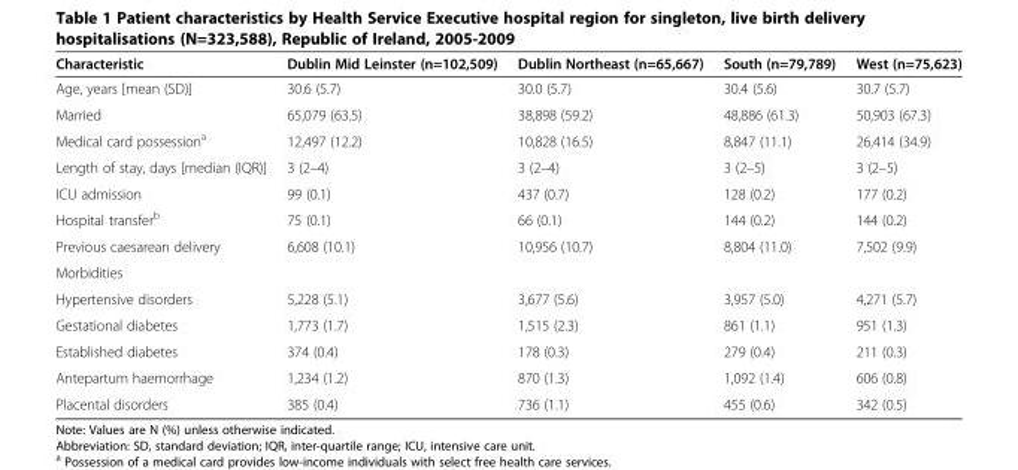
<table><thead><tr><td>Characteristic</td><td>Dublin Mid Leinster (n=102,509)</td><td>Dublin Northeast (n=65,667)</td><td>South (n=79,789)</td><td>West (n=75,623)</td></tr></thead><tbody><tr><td>Age, years [mean (SD)]</td><td>30.6 (5.7)</td><td>30.0 (5.7)</td><td>30.4 (5.6)</td><td>30.7 (5.7)</td></tr><tr><td>Married</td><td>65,079 (63.5)</td><td>38,898 (59.2)</td><td>48,886 (61.3)</td><td>50,903 (67.3)</td></tr><tr><td>Medical card possession<sup>a</sup></td><td>12,497 (12.2)</td><td>10,828 (16.5)</td><td>8,847 (11.1)</td><td>26,414 (34.9)</td></tr><tr><td>Length of stay, days [median (IQR)]</td><td>3 (2–4)</td><td>3 (2–4)</td><td>3 (2–5)</td><td>3 (2–5)</td></tr><tr><td>ICU admission</td><td>99 (0.1)</td><td>437 (0.7)</td><td>128 (0.2)</td><td>177 (0.2)</td></tr><tr><td>Hospital transfer<sup>b</sup></td><td>75 (0.1)</td><td>66 (0.1)</td><td>144 (0.2)</td><td>144 (0.2)</td></tr><tr><td>Previous caesarean delivery</td><td>6,608 (10.1)</td><td>10,956 (10.7)</td><td>8,804 (11.0)</td><td>7,502 (9.9)</td></tr><tr><td colspan="5">Morbidities</td></tr><tr><td>Hypertensive disorders</td><td>5,228 (5.1)</td><td>3,677 (5.6)</td><td>3,957 (5.0)</td><td>4,271 (5.7)</td></tr><tr><td>Gestational diabetes</td><td>1,773 (1.7)</td><td>1,515 (2.3)</td><td>861 (1.1)</td><td>951 (1.3)</td></tr><tr><td>Established diabetes</td><td>374 (0.4)</td><td>178 (0.3)</td><td>279 (0.4)</td><td>211 (0.3)</td></tr><tr><td>Antepartum haemorrhage</td><td>1,234 (1.2)</td><td>870 (1.3)</td><td>1,092 (1.4)</td><td>606 (0.8)</td></tr><tr><td>Placental disorders</td><td>385 (0.4)</td><td>736 (1.1)</td><td>455 (0.6)</td><td>342 (0.5)</td></tr></tbody></table>